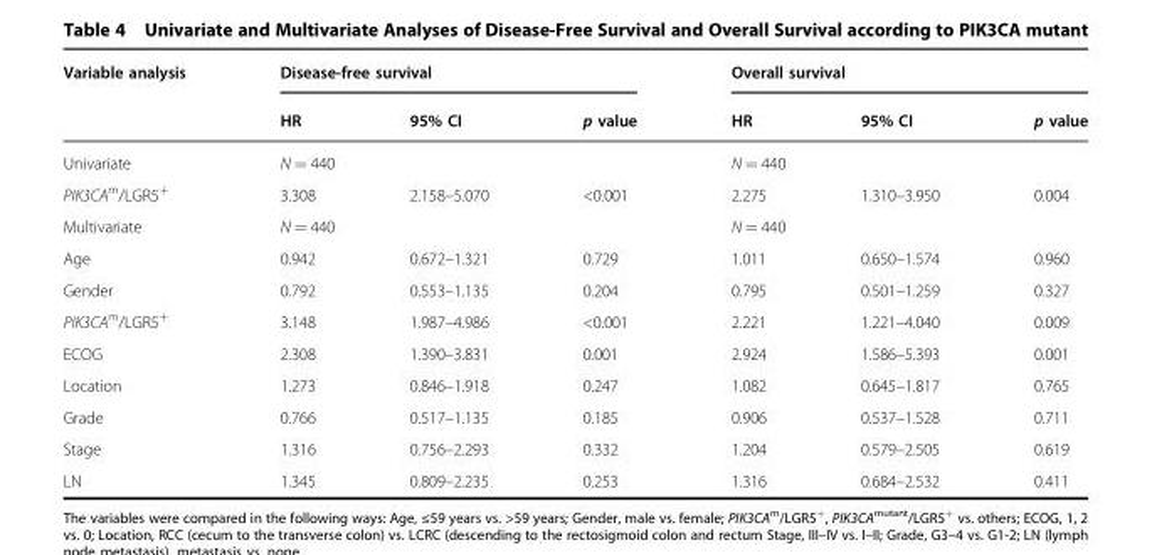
<table><thead><tr><td rowspan="2">Variable analysis</td><td colspan="3">Disease-free survival</td><td colspan="3">Overall survival</td></tr><tr><td>HR</td><td>95% CI</td><td>p value</td><td>HR</td><td>95% CI</td><td>p value</td></tr></thead><tbody><tr><td>Univariate</td><td colspan="3">N = 440</td><td colspan="3">N = 440</td></tr><tr><td>PIK3CA<sup>m</sup>/LGR5<sup>+</sup></td><td>3.308</td><td>2.158–5.070</td><td>&lt;0.001</td><td>2.275</td><td>1.310–3.950</td><td>0.004</td></tr><tr><td>Multivariate</td><td colspan="3">N = 440</td><td colspan="3">N = 440</td></tr><tr><td>Age</td><td>0.942</td><td>0.672–1.321</td><td>0.729</td><td>1.011</td><td>0.650–1.574</td><td>0.960</td></tr><tr><td>Gender</td><td>0.792</td><td>0.553–1.135</td><td>0.204</td><td>0.795</td><td>0.501–1.259</td><td>0.327</td></tr><tr><td>PIK3CA<sup>m</sup>/LGR5<sup>+</sup></td><td>3.148</td><td>1.987–4.986</td><td>&lt;0.001</td><td>2.221</td><td>1.221–4.040</td><td>0.009</td></tr><tr><td>ECOG</td><td>2.308</td><td>1.390–3.831</td><td>0.001</td><td>2.924</td><td>1.586–5.393</td><td>0.001</td></tr><tr><td>Location</td><td>1.273</td><td>0.846–1.918</td><td>0.247</td><td>1.082</td><td>0.645–1.817</td><td>0.765</td></tr><tr><td>Grade</td><td>0.766</td><td>0.517–1.135</td><td>0.185</td><td>0.906</td><td>0.537–1.528</td><td>0.711</td></tr><tr><td>Stage</td><td>1.316</td><td>0.756–2.293</td><td>0.332</td><td>1.204</td><td>0.579–2.505</td><td>0.619</td></tr><tr><td>LN</td><td>1.345</td><td>0.809–2.235</td><td>0.253</td><td>1.316</td><td>0.684–2.532</td><td>0.411</td></tr></tbody></table>